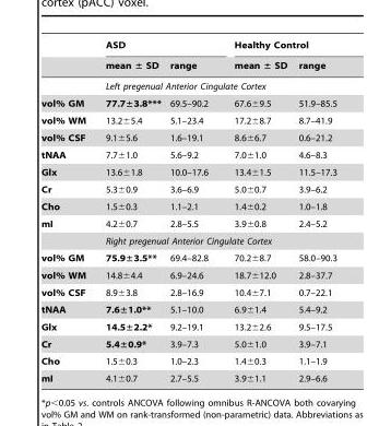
<table><thead><tr><td rowspan="2"></td><td colspan="2">ASD</td><td colspan="2">Healthy Control</td></tr><tr><td>mean ± SD</td><td>range</td><td>mean ± SD</td><td>range</td></tr></thead><tbody><tr><td></td><td colspan="4">Left pregenual Anterior Cingulate Cortex</td></tr><tr><td>vol% GM</td><td>77.7±3.8***</td><td>69.5–90.2</td><td>67.6±9.5</td><td>51.9–85.5</td></tr><tr><td>vol% WM</td><td>13.2±5.4</td><td>5.1–23.4</td><td>17.2±8.7</td><td>8.7–41.9</td></tr><tr><td>vol% CSF</td><td>9.1±5.6</td><td>1.6–19.1</td><td>8.6±6.7</td><td>0.6–21.2</td></tr><tr><td>tNAA</td><td>7.7±1.0</td><td>5.6–9.2</td><td>7.0±1.0</td><td>4.6–8.3</td></tr><tr><td>Glx</td><td>13.6±1.8</td><td>10.0–17.6</td><td>13.4±1.5</td><td>11.5–17.3</td></tr><tr><td>Cr</td><td>5.3±0.9</td><td>3.6–6.9</td><td>5.0±0.7</td><td>3.9–6.2</td></tr><tr><td>Cho</td><td>1.5±0.3</td><td>1.1–2.1</td><td>1.4±0.2</td><td>1.0–1.8</td></tr><tr><td rowspan="2">mI</td><td>4.2±0.7</td><td>2.8–5.5</td><td>3.9±0.8</td><td>2.4–5.2</td></tr><tr><td colspan="4">Right pregenual Anterior Cingulate Cortex</td></tr><tr><td>vol% GM</td><td>75.9±3.5**</td><td>69.4–82.8</td><td>70.2±8.7</td><td>58.0–90.3</td></tr><tr><td>vol% WM</td><td>14.8±4.4</td><td>6.9–24.6</td><td>18.7±12.0</td><td>2.8–37.7</td></tr><tr><td>vol% CSF</td><td>8.9±3.8</td><td>2.8–16.9</td><td>10.4±7.1</td><td>0.7–22.1</td></tr><tr><td>tNAA</td><td>7.6±1.0**</td><td>5.1–10.0</td><td>6.9±1.4</td><td>5.4–9.2</td></tr><tr><td>Glx</td><td>14.5±2.2*</td><td>9.2–19.1</td><td>13.2±2.6</td><td>9.5–17.5</td></tr><tr><td>Cr</td><td>5.4±0.9*</td><td>3.9–7.3</td><td>5.0±1.0</td><td>3.9–7.1</td></tr><tr><td>Cho</td><td>1.5±0.3</td><td>1.0–2.3</td><td>1.4±0.3</td><td>1.1–1.9</td></tr><tr><td>mI</td><td>4.1±0.7</td><td>2.7–5.5</td><td>3.9±1.1</td><td>2.9–6.6</td></tr></tbody></table>